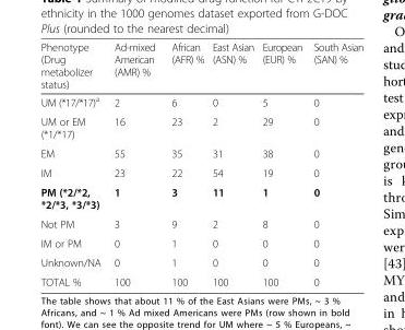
<table><thead><tr><td>Phenotype (Drug metabolizer status)</td><td>Ad-mixed American (AMR) %</td><td>African (AFR) %</td><td>East Asian (ASN) %</td><td>European (EUR) %</td><td>South Asian (SAN) %</td></tr></thead><tbody><tr><td>UM (*17/*17)<sup>a</sup></td><td>2</td><td>6</td><td>0</td><td>5</td><td>0</td></tr><tr><td>UM or EM (*1/*17)</td><td>16</td><td>23</td><td>2</td><td>29</td><td>0</td></tr><tr><td>EM</td><td>55</td><td>35</td><td>31</td><td>38</td><td>0</td></tr><tr><td>IM</td><td>23</td><td>22</td><td>54</td><td>19</td><td>0</td></tr><tr><td>PM (*2/*2, *2/*3, *3/*3)</td><td>1</td><td>3</td><td>11</td><td>1</td><td>0</td></tr><tr><td>Not PM</td><td>3</td><td>9</td><td>2</td><td>8</td><td>0</td></tr><tr><td>IM or PM</td><td>0</td><td>1</td><td>0</td><td>0</td><td>0</td></tr><tr><td>Unknown/NA</td><td>0</td><td>1</td><td>0</td><td>0</td><td>0</td></tr><tr><td>TOTAL %</td><td>100</td><td>100</td><td>100</td><td>100</td><td>0</td></tr></tbody></table>